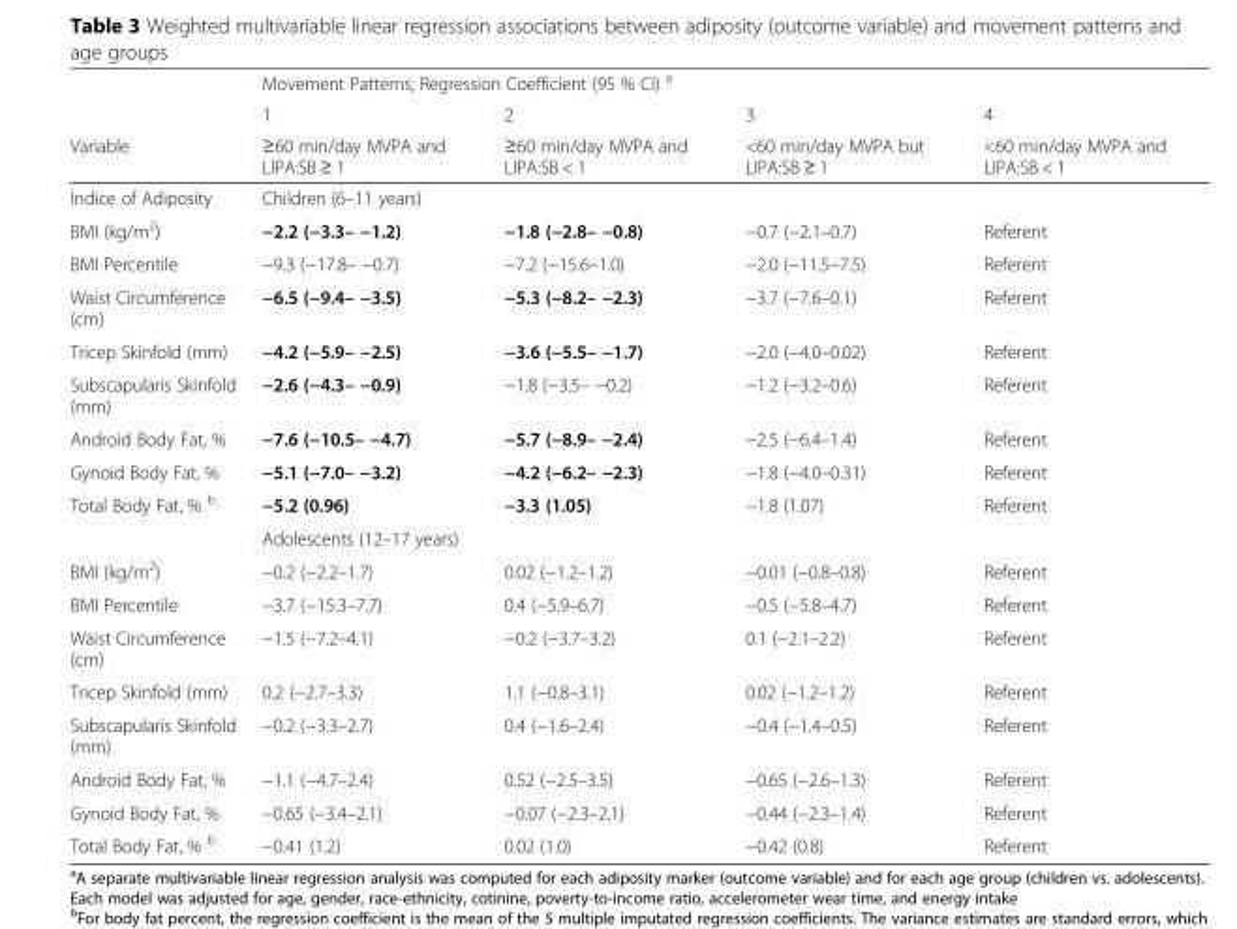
<table><thead><tr><td rowspan="3">Variable</td><td colspan="4">Movement Patterns; Regression Coefficient (95 % CI) <sup>a</sup></td></tr><tr><td rowspan="2">1 ≥60 min/day MVPA and LIPA:SB ≥ 1</td><td rowspan="2">2 ≥60 min/day MVPA and LIPA:SB &lt; 1</td><td rowspan="2">3 &lt;60 min/day MVPA but LIPA:SB ≥ 1</td><td rowspan="2">4 &lt;60 min/day MVPA and LIPA:SB &lt; 1</td></tr><tr></tr></thead><tbody><tr><td>Indice of Adiposity</td><td colspan="4">Children (6–11 years)</td></tr><tr><td>BMI (kg/m<sup>2</sup>)</td><td>−2.2 (−3.3– −1.2)</td><td>−1.8 (−2.8– −0.8)</td><td>−0.7 (−2.1–0.7)</td><td>Referent</td></tr><tr><td>BMI Percentile</td><td>−9.3 (−17.8– −0.7)</td><td>−7.2 (−15.6–1.0)</td><td>−2.0 (−11.5–7.5)</td><td>Referent</td></tr><tr><td>Waist Circumference (cm)</td><td>−6.5 (−9.4– −3.5)</td><td>−5.3 (−8.2– −2.3)</td><td>−3.7 (−7.6–0.1)</td><td>Referent</td></tr><tr><td>Tricep Skinfold (mm)</td><td>−4.2 (−5.9– −2.5)</td><td>−3.6 (−5.5– −1.7)</td><td>−2.0 (−4.0–0.02)</td><td>Referent</td></tr><tr><td>Subscapularis Skinfold (mm)</td><td>−2.6 (−4.3– −0.9)</td><td>−1.8 (−3.5– −0.2)</td><td>−1.2 (−3.2–0.6)</td><td>Referent</td></tr><tr><td>Android Body Fat, %</td><td>−7.6 (−10.5– −4.7)</td><td>−5.7 (−8.9– −2.4)</td><td>−2.5 (−6.4–1.4)</td><td>Referent</td></tr><tr><td>Gynoid Body Fat, %</td><td>−5.1 (−7.0– −3.2)</td><td>−4.2 (−6.2– −2.3)</td><td>−1.8 (−4.0–0.31)</td><td>Referent</td></tr><tr><td rowspan="2">Total Body Fat, % <sup>b</sup></td><td>−5.2 (0.96)</td><td>−3.3 (1.05)</td><td>−1.8 (1.07)</td><td>Referent</td></tr><tr><td colspan="4">Adolescents (12–17 years)</td></tr><tr><td>BMI (kg/m<sup>2</sup>)</td><td>−0.2 (−2.2–1.7)</td><td>0.02 (−1.2–1.2)</td><td>−0.01 (−0.8–0.8)</td><td>Referent</td></tr><tr><td>BMI Percentile</td><td>−3.7 (−15.3–7.7)</td><td>0.4 (−5.9–6.7)</td><td>−0.5 (−5.8–4.7)</td><td>Referent</td></tr><tr><td>Waist Circumference (cm)</td><td>−1.5 (−7.2–4.1)</td><td>−0.2 (−3.7–3.2)</td><td>0.1 (−2.1–2.2)</td><td>Referent</td></tr><tr><td>Tricep Skinfold (mm)</td><td>0.2 (−2.7–3.3)</td><td>1.1 (−0.8–3.1)</td><td>0.02 (−1.2–1.2)</td><td>Referent</td></tr><tr><td>Subscapularis Skinfold (mm)</td><td>−0.2 (−3.3–2.7)</td><td>0.4 (−1.6–2.4)</td><td>−0.4 (−1.4–0.5)</td><td>Referent</td></tr><tr><td>Android Body Fat, %</td><td>−1.1 (−4.7–2.4)</td><td>0.52 (−2.5–3.5)</td><td>−0.65 (−2.6–1.3)</td><td>Referent</td></tr><tr><td>Gynoid Body Fat, %</td><td>−0.65 (−3.4–2.1)</td><td>−0.07 (−2.3–2.1)</td><td>−0.44 (−2.3–1.4)</td><td>Referent</td></tr><tr><td>Total Body Fat, % <sup>b</sup></td><td>−0.41 (1.2)</td><td>0.02 (1.0)</td><td>−0.42 (0.8)</td><td>Referent</td></tr></tbody></table>